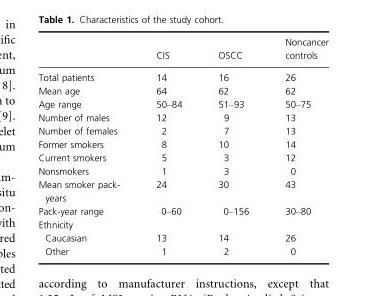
<table><thead><tr><td></td><td>CIS</td><td>OSCC</td><td>Noncancer controls</td></tr></thead><tbody><tr><td>Total patients</td><td>14</td><td>16</td><td>26</td></tr><tr><td>Mean age</td><td>64</td><td>62</td><td>62</td></tr><tr><td>Age range</td><td>50–84</td><td>51–93</td><td>50–75</td></tr><tr><td>Number of males</td><td>12</td><td>9</td><td>13</td></tr><tr><td>Number of females</td><td>2</td><td>7</td><td>13</td></tr><tr><td>Former smokers</td><td>8</td><td>10</td><td>14</td></tr><tr><td>Current smokers</td><td>5</td><td>3</td><td>12</td></tr><tr><td>Nonsmokers</td><td>1</td><td>3</td><td>0</td></tr><tr><td>Mean smoker pack- years</td><td>24</td><td>30</td><td>43</td></tr><tr><td>Pack-year range</td><td>0–60</td><td>0–156</td><td>30–80</td></tr><tr><td colspan="4">Ethnicity</td></tr><tr><td>Caucasian</td><td>13</td><td>14</td><td>26</td></tr><tr><td>Other</td><td>1</td><td>2</td><td>0</td></tr></tbody></table>